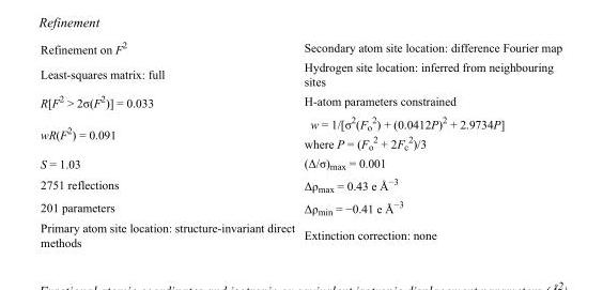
<table><tbody><tr><td>Refinement on F<sup>2</sup></td><td>Secondary atom site location: difference Fourier map</td></tr><tr><td>Least-squares matrix: full</td><td>Hydrogen site location: inferred from neighbouring sites</td></tr><tr><td>R[F<sup>2</sup> &gt; 2σ(F<sup>2</sup>)] = 0.033</td><td>H-atom parameters constrained</td></tr><tr><td>wR(F<sup>2</sup>) = 0.091</td><td>w = 1/[σ<sup>2</sup>(F<sub>o</sub> <sup>2</sup>) + (0.0412P)<sup>2</sup> + 2.9734P] where P = (F<sub>o</sub> <sup>2</sup> + 2F<sub>c</sub> <sup>2</sup>)/3</td></tr><tr><td>S = 1.03</td><td>(Δ/σ)<sub>max</sub> = 0.001</td></tr><tr><td>2751 reflections</td><td>Δρ<sub>max</sub> = 0.43 e Å<sup>−3</sup></td></tr><tr><td>201 parameters</td><td>Δρ<sub>min</sub> = −0.41 e Å<sup>−3</sup></td></tr><tr><td>Primary atom site location: structure-invariant direct methods</td><td>Extinction correction: none</td></tr></tbody></table>